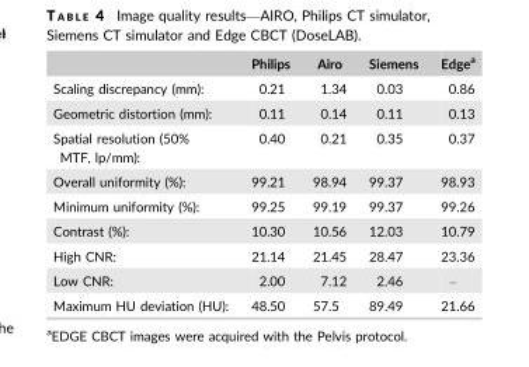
<table><thead><tr><td></td><td>Philips</td><td>Airo</td><td>Siemens</td><td>Edge<sup>a</sup></td></tr></thead><tbody><tr><td>Scaling discrepancy (mm):</td><td>0.21</td><td>1.34</td><td>0.03</td><td>0.86</td></tr><tr><td>Geometric distortion (mm):</td><td>0.11</td><td>0.14</td><td>0.11</td><td>0.13</td></tr><tr><td>Spatial resolution (50% MTF, lp/mm):</td><td>0.40</td><td>0.21</td><td>0.35</td><td>0.37</td></tr><tr><td>Overall uniformity (%):</td><td>99.21</td><td>98.94</td><td>99.37</td><td>98.93</td></tr><tr><td>Minimum uniformity (%):</td><td>99.25</td><td>99.19</td><td>99.37</td><td>99.26</td></tr><tr><td>Contrast (%):</td><td>10.30</td><td>10.56</td><td>12.03</td><td>10.79</td></tr><tr><td>High CNR:</td><td>21.14</td><td>21.45</td><td>28.47</td><td>23.36</td></tr><tr><td>Low CNR:</td><td>2.00</td><td>7.12</td><td>2.46</td><td>–</td></tr><tr><td>Maximum HU deviation (HU):</td><td>48.50</td><td>57.5</td><td>89.49</td><td>21.66</td></tr></tbody></table>